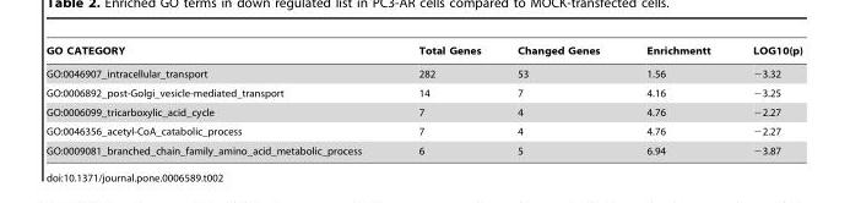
<table><thead><tr><td>GO CATEGORY</td><td>Total Genes</td><td>Changed Genes</td><td>Enrichmentt</td><td>LOG10(p)</td></tr></thead><tbody><tr><td>GO:0046907_intracellular_transport</td><td>282</td><td>53</td><td>1.56</td><td>−3.32</td></tr><tr><td>GO:0006892_post-Golgi_vesicle-mediated_transport</td><td>14</td><td>7</td><td>4.16</td><td>−3.25</td></tr><tr><td>GO:0006099_tricarboxylic_acid_cycle</td><td>7</td><td>4</td><td>4.76</td><td>−2.27</td></tr><tr><td>GO:0046356_acetyl-CoA_catabolic_process</td><td>7</td><td>4</td><td>4.76</td><td>−2.27</td></tr><tr><td>GO:0009081_branched_chain_family_amino_acid_metabolic_process</td><td>6</td><td>5</td><td>6.94</td><td>−3.87</td></tr></tbody></table>